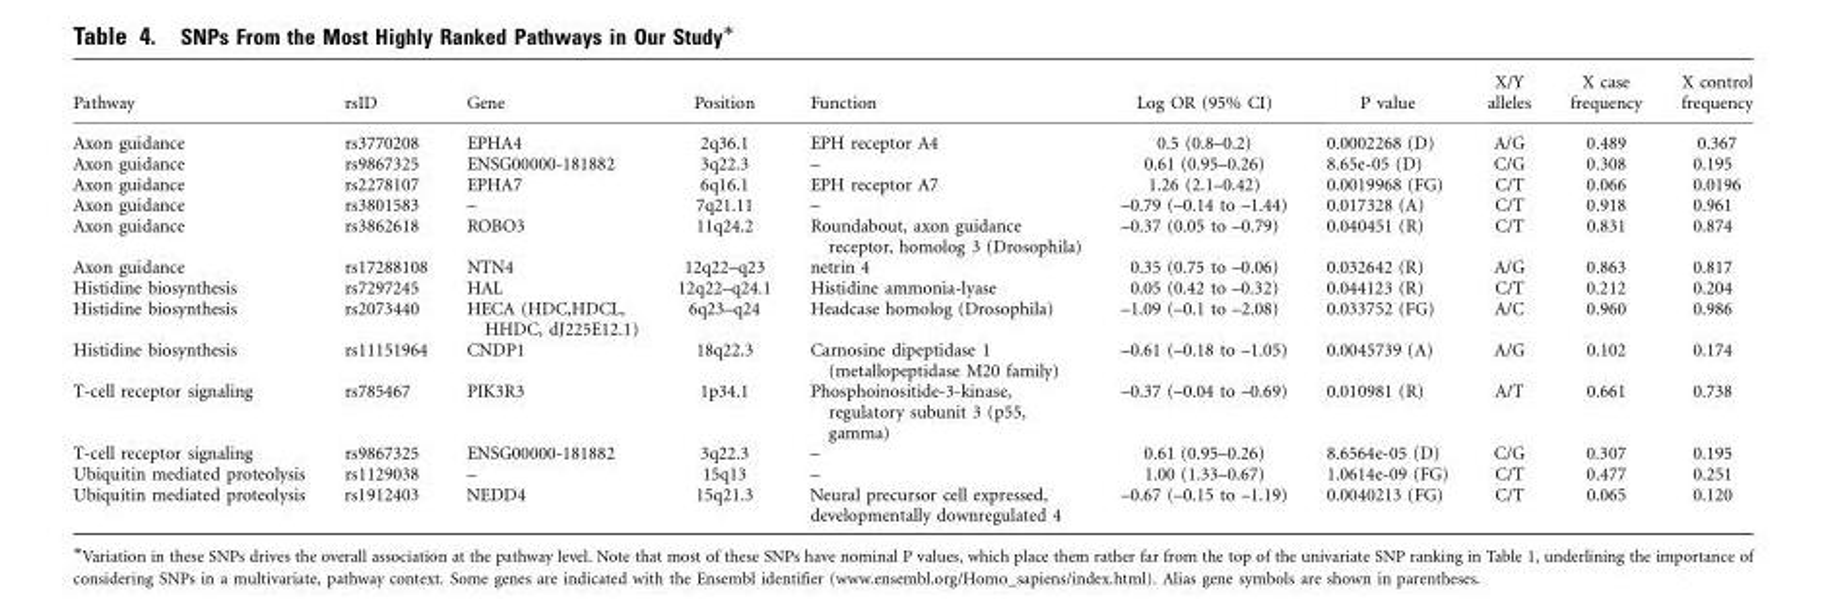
<table><thead><tr><td>Pathway</td><td>rsID</td><td>Gene</td><td>Position</td><td>Function</td><td>Log OR (95% CI)</td><td>P value</td><td>X/Y alleles</td><td>X case frequency</td><td>X control frequency</td></tr></thead><tbody><tr><td>Axon guidance</td><td>rs3770208</td><td>EPHA4</td><td>2q36.1</td><td>EPH receptor A4</td><td>0.5 (0.8–0.2)</td><td>0.0002268 (D)</td><td>A/G</td><td>0.489</td><td>0.367</td></tr><tr><td>Axon guidance</td><td>rs9867325</td><td>ENSG00000-181882</td><td>3q22.3</td><td>–</td><td>0.61 (0.95–0.26)</td><td>8.65e-05 (D)</td><td>C/G</td><td>0.308</td><td>0.195</td></tr><tr><td>Axon guidance</td><td>rs2278107</td><td>EPHA7</td><td>6q16.1</td><td>EPH receptor A7</td><td>1.26 (2.1–0.42)</td><td>0.0019968 (FG)</td><td>C/T</td><td>0.066</td><td>0.0196</td></tr><tr><td>Axon guidance</td><td>rs3801583</td><td>–</td><td>7q21.11</td><td>–</td><td>–0.79 (–0.14 to –1.44)</td><td>0.017328 (A)</td><td>C/T</td><td>0.918</td><td>0.961</td></tr><tr><td>Axon guidance</td><td>rs3862618</td><td>ROBO3</td><td>11q24.2</td><td>Roundabout, axon guidance receptor, homolog 3 (Drosophila)</td><td>–0.37 (0.05 to –0.79)</td><td>0.040451 (R)</td><td>C/T</td><td>0.831</td><td>0.874</td></tr><tr><td>Axon guidance</td><td>rs17288108</td><td>NTN4</td><td>12q22–q23</td><td>netrin 4</td><td>0.35 (0.75 to –0.06)</td><td>0.032642 (R)</td><td>A/G</td><td>0.863</td><td>0.817</td></tr><tr><td>Histidine biosynthesis</td><td>rs7297245</td><td>HAL</td><td>12q22–q24.1</td><td>Histidine ammonia-lyase</td><td>0.05 (0.42 to –0.32)</td><td>0.044123 (R)</td><td>C/T</td><td>0.212</td><td>0.204</td></tr><tr><td>Histidine biosynthesis</td><td>rs2073440</td><td>HECA (HDC,HDCL, HHDC, dJ225E12.1)</td><td>6q23–q24</td><td>Headcase homolog (Drosophila)</td><td>–1.09 (–0.1 to –2.08)</td><td>0.033752 (FG)</td><td>A/C</td><td>0.960</td><td>0.986</td></tr><tr><td>Histidine biosynthesis</td><td>rs11151964</td><td>CNDP1</td><td>18q22.3</td><td>Carnosine dipeptidase 1 (metallopeptidase M20 family)</td><td>–0.61 (–0.18 to –1.05)</td><td>0.0045739 (A)</td><td>A/G</td><td>0.102</td><td>0.174</td></tr><tr><td>T-cell receptor signaling</td><td>rs785467</td><td>PIK3R3</td><td>1p34.1</td><td>Phosphoinositide-3-kinase, regulatory subunit 3 (p55, gamma)</td><td>–0.37 (–0.04 to –0.69)</td><td>0.010981 (R)</td><td>A/T</td><td>0.661</td><td>0.738</td></tr><tr><td>T-cell receptor signaling</td><td>rs9867325</td><td>ENSG00000-181882</td><td>3q22.3</td><td>–</td><td>0.61 (0.95–0.26)</td><td>8.6564e-05 (D)</td><td>C/G</td><td>0.307</td><td>0.195</td></tr><tr><td>Ubiquitin mediated proteolysis</td><td>rs1129038</td><td>–</td><td>15q13</td><td>–</td><td>1.00 (1.33–0.67)</td><td>1.0614e-09 (FG)</td><td>C/T</td><td>0.477</td><td>0.251</td></tr><tr><td>Ubiquitin mediated proteolysis</td><td>rs1912403</td><td>NEDD4</td><td>15q21.3</td><td>Neural precursor cell expressed, developmentally downregulated 4</td><td>–0.67 (–0.15 to –1.19)</td><td>0.0040213 (FG)</td><td>C/T</td><td>0.065</td><td>0.120</td></tr></tbody></table>